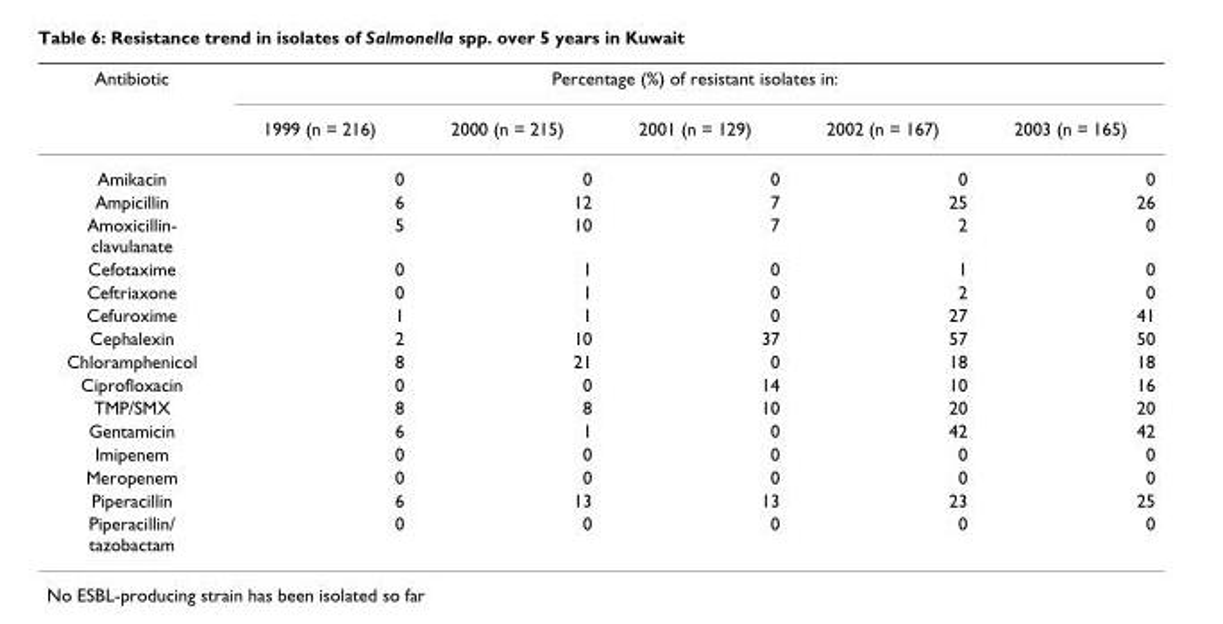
<table><thead><tr><td rowspan="2">Antibiotic</td><td colspan="5">Percentage (%) of resistant isolates in:</td></tr><tr><td>1999 (n = 216)</td><td>2000 (n = 215)</td><td>2001 (n = 129)</td><td>2002 (n = 167)</td><td>2003 (n = 165)</td></tr></thead><tbody><tr><td>Amikacin</td><td>0</td><td>0</td><td>0</td><td>0</td><td>0</td></tr><tr><td>Ampicillin</td><td>6</td><td>12</td><td>7</td><td>25</td><td>26</td></tr><tr><td>Amoxicillin- clavulanate</td><td>5</td><td>10</td><td>7</td><td>2</td><td>0</td></tr><tr><td>Cefotaxime</td><td>0</td><td>1</td><td>0</td><td>1</td><td>0</td></tr><tr><td>Ceftriaxone</td><td>0</td><td>1</td><td>0</td><td>2</td><td>0</td></tr><tr><td>Cefuroxime</td><td>1</td><td>1</td><td>0</td><td>27</td><td>41</td></tr><tr><td>Cephalexin</td><td>2</td><td>10</td><td>37</td><td>57</td><td>50</td></tr><tr><td>Chloramphenicol</td><td>8</td><td>21</td><td>0</td><td>18</td><td>18</td></tr><tr><td>Ciprofloxacin</td><td>0</td><td>0</td><td>14</td><td>10</td><td>16</td></tr><tr><td>TMP/SMX</td><td>8</td><td>8</td><td>10</td><td>20</td><td>20</td></tr><tr><td>Gentamicin</td><td>6</td><td>1</td><td>0</td><td>42</td><td>42</td></tr><tr><td>Imipenem</td><td>0</td><td>0</td><td>0</td><td>0</td><td>0</td></tr><tr><td>Meropenem</td><td>0</td><td>0</td><td>0</td><td>0</td><td>0</td></tr><tr><td>Piperacillin</td><td>6</td><td>13</td><td>13</td><td>23</td><td>25</td></tr><tr><td>Piperacillin/ tazobactam</td><td>0</td><td>0</td><td>0</td><td>0</td><td>0</td></tr></tbody></table>